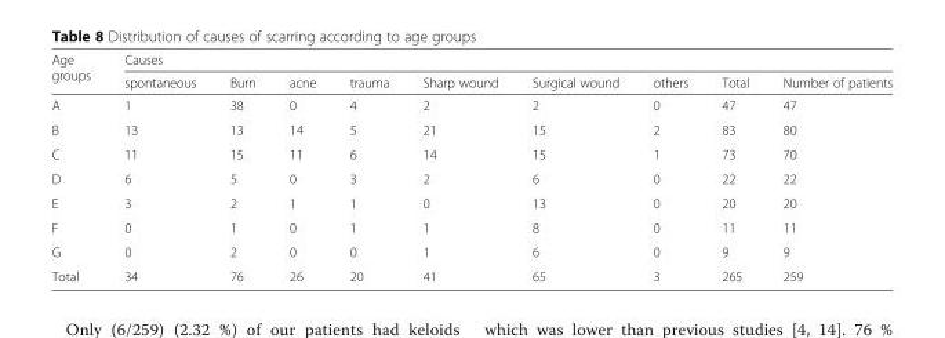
<table><thead><tr><td rowspan="2">Age groups</td><td colspan="9">Causes</td></tr><tr><td>spontaneous</td><td>Burn</td><td>acne</td><td>trauma</td><td>Sharp wound</td><td>Surgical wound</td><td>others</td><td>Total</td><td>Number of patients</td></tr></thead><tbody><tr><td>A</td><td>1</td><td>38</td><td>0</td><td>4</td><td>2</td><td>2</td><td>0</td><td>47</td><td>47</td></tr><tr><td>B</td><td>13</td><td>13</td><td>14</td><td>5</td><td>21</td><td>15</td><td>2</td><td>83</td><td>80</td></tr><tr><td>C</td><td>11</td><td>15</td><td>11</td><td>6</td><td>14</td><td>15</td><td>1</td><td>73</td><td>70</td></tr><tr><td>D</td><td>6</td><td>5</td><td>0</td><td>3</td><td>2</td><td>6</td><td>0</td><td>22</td><td>22</td></tr><tr><td>E</td><td>3</td><td>2</td><td>1</td><td>1</td><td>0</td><td>13</td><td>0</td><td>20</td><td>20</td></tr><tr><td>F</td><td>0</td><td>1</td><td>0</td><td>1</td><td>1</td><td>8</td><td>0</td><td>11</td><td>11</td></tr><tr><td>G</td><td>0</td><td>2</td><td>0</td><td>0</td><td>1</td><td>6</td><td>0</td><td>9</td><td>9</td></tr><tr><td>Total</td><td>34</td><td>76</td><td>26</td><td>20</td><td>41</td><td>65</td><td>3</td><td>265</td><td>259</td></tr></tbody></table>